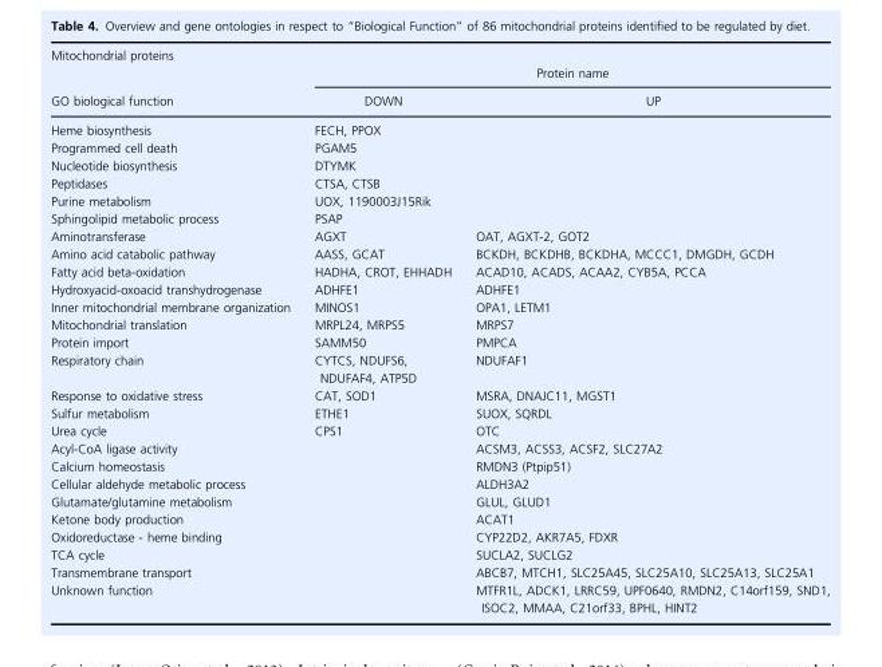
<table><thead><tr><td colspan="3">Mitochondrial proteins</td></tr><tr><td rowspan="2">GO biological function</td><td colspan="2">Protein name</td></tr><tr><td>DOWN</td><td>UP</td></tr></thead><tbody><tr><td>Heme biosynthesis</td><td>FECH, PPOX</td><td></td></tr><tr><td>Programmed cell death</td><td>PGAM5</td><td></td></tr><tr><td>Nucleotide biosynthesis</td><td>DTYMK</td><td></td></tr><tr><td>Peptidases</td><td>CTSA, CTSB</td><td></td></tr><tr><td>Purine metabolism</td><td>UOX, 1190003J15Rik</td><td></td></tr><tr><td>Sphingolipid metabolic process</td><td>PSAP</td><td></td></tr><tr><td>Aminotransferase</td><td>AGXT</td><td>OAT, AGXT-2, GOT2</td></tr><tr><td>Amino acid catabolic pathway</td><td>AASS, GCAT</td><td>BCKDH, BCKDHB, BCKDHA, MCCC1, DMGDH, GCDH</td></tr><tr><td>Fatty acid beta-oxidation</td><td>HADHA, CROT, EHHADH</td><td>ACAD10, ACADS, ACAA2, CYB5A, PCCA</td></tr><tr><td>Hydroxyacid-oxoacid transhydrogenase</td><td>ADHFE1</td><td>ADHFE1</td></tr><tr><td>Inner mitochondrial membrane organization</td><td>MINOS1</td><td>OPA1, LETM1</td></tr><tr><td>Mitochondrial translation</td><td>MRPL24, MRPS5</td><td>MRPS7</td></tr><tr><td>Protein import</td><td>SAMM50</td><td>PMPCA</td></tr><tr><td>Respiratory chain</td><td>CYTCS, NDUFS6, NDUFAF4, ATP5D</td><td>NDUFAF1</td></tr><tr><td>Response to oxidative stress</td><td>CAT, SOD1</td><td>MSRA, DNAJC11, MGST1</td></tr><tr><td>Sulfur metabolism</td><td>ETHE1</td><td>SUOX, SQRDL</td></tr><tr><td>Urea cycle</td><td>CPS1</td><td>OTC</td></tr><tr><td>Acyl-CoA ligase activity</td><td></td><td>ACSM3, ACSS3, ACSF2, SLC27A2</td></tr><tr><td>Calcium homeostasis</td><td></td><td>RMDN3 (Ptpip51)</td></tr><tr><td>Cellular aldehyde metabolic process</td><td></td><td>ALDH3A2</td></tr><tr><td>Glutamate/glutamine metabolism</td><td></td><td>GLUL, GLUD1</td></tr><tr><td>Ketone body production</td><td></td><td>ACAT1</td></tr><tr><td>Oxidoreductase - heme binding</td><td></td><td>CYP22D2, AKR7A5, FDXR</td></tr><tr><td>TCA cycle</td><td></td><td>SUCLA2, SUCLG2</td></tr><tr><td>Transmembrane transport</td><td></td><td>ABCB7, MTCH1, SLC25A45, SLC25A10, SLC25A13, SLC25A1</td></tr><tr><td>Unknown function</td><td></td><td>MTFR1L, ADCK1, LRRC59, UPF0640, RMDN2, C14orf159, SND1, ISOC2, MMAA, C21orf33, BPHL, HINT2</td></tr></tbody></table>